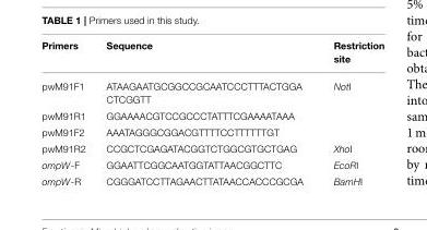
<table><thead><tr><td>Primers</td><td>Sequence</td><td>Restriction site</td></tr></thead><tbody><tr><td>pwM91F1</td><td>ATAAGAATGCGGCCGCAATCCCTTTACTGGA CTCGGTT</td><td>NotI</td></tr><tr><td>pwM91R1</td><td>GGAAAACGTCCGCCCTATTTCGAAAATAAA</td><td></td></tr><tr><td>pwM91F2</td><td>AAATAGGGCGGACGTTTTCCTTTTTTGT</td><td></td></tr><tr><td>pwM91R2</td><td>CCGCTCGAGATACGGTCTGGCGTGCTGAG</td><td>XhoI</td></tr><tr><td>ompW-F</td><td>GGAATTCGGCAATGGTATTAACGGCTTC</td><td>EcoRI</td></tr><tr><td>ompW-R</td><td>CGGGATCCTTAGAACTTATAACCACCCGCGA</td><td>BamHI</td></tr></tbody></table>